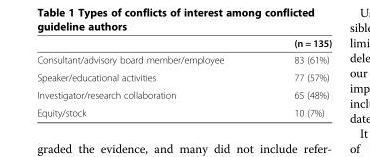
<table><thead><tr><td></td><td>(n = 135)</td></tr></thead><tbody><tr><td>Consultant/advisory board member/employee</td><td>83 (61%)</td></tr><tr><td>Speaker/educational activities</td><td>77 (57%)</td></tr><tr><td>Investigator/research collaboration</td><td>65 (48%)</td></tr><tr><td>Equity/stock</td><td>10 (7%)</td></tr></tbody></table>